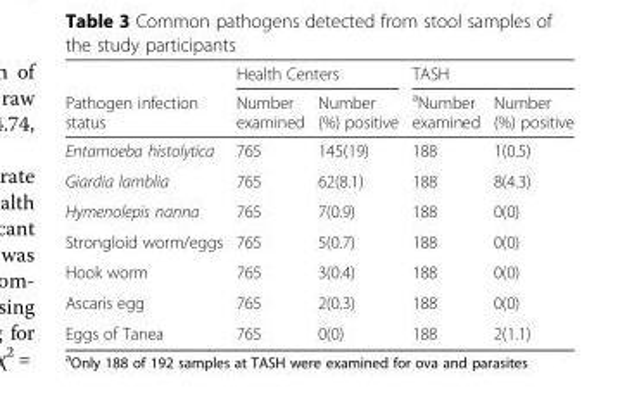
<table><thead><tr><td rowspan="2">Pathogen infection status</td><td colspan="2">Health Centers</td><td colspan="2">TASH</td></tr><tr><td>Number examined</td><td>Number (%) positive</td><td><sup>a</sup>Number examined</td><td>Number (%) positive</td></tr></thead><tbody><tr><td>Entamoeba histolytica</td><td>765</td><td>145(19)</td><td>188</td><td>1(0.5)</td></tr><tr><td>Giardia lamblia</td><td>765</td><td>62(8.1)</td><td>188</td><td>8(4.3)</td></tr><tr><td>Hymenolepis nanna</td><td>765</td><td>7(0.9)</td><td>188</td><td>0(0)</td></tr><tr><td>Strongloid worm/eggs</td><td>765</td><td>5(0.7)</td><td>188</td><td>0(0)</td></tr><tr><td>Hook worm</td><td>765</td><td>3(0.4)</td><td>188</td><td>0(0)</td></tr><tr><td>Ascaris egg</td><td>765</td><td>2(0.3)</td><td>188</td><td>0(0)</td></tr><tr><td>Eggs of Tanea</td><td>765</td><td>0(0)</td><td>188</td><td>2(1.1)</td></tr></tbody></table>